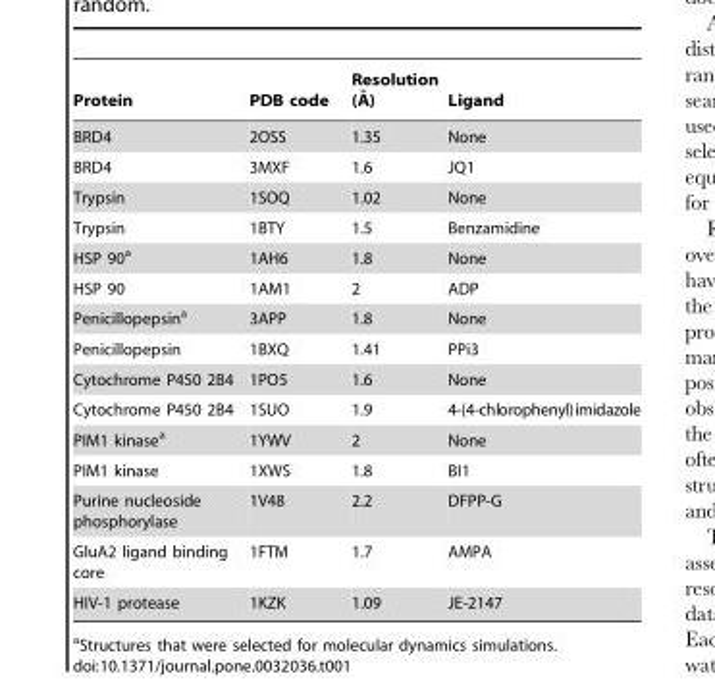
<table><thead><tr><td>Protein</td><td>PDB code</td><td>Resolution (A˚ )</td><td>Ligand</td></tr></thead><tbody><tr><td>BRD4</td><td>2OSS</td><td>1.35</td><td>None</td></tr><tr><td>BRD4</td><td>3MXF</td><td>1.6</td><td>JQ1</td></tr><tr><td>Trypsin</td><td>1SOQ</td><td>1.02</td><td>None</td></tr><tr><td>Trypsin</td><td>1BTY</td><td>1.5</td><td>Benzamidine</td></tr><tr><td>HSP 90<sup>a</sup></td><td>1AH6</td><td>1.8</td><td>None</td></tr><tr><td>HSP 90</td><td>1AM1</td><td>2</td><td>ADP</td></tr><tr><td>Penicillopepsin<sup>a</sup></td><td>3APP</td><td>1.8</td><td>None</td></tr><tr><td>Penicillopepsin</td><td>1BXQ</td><td>1.41</td><td>PPi3</td></tr><tr><td>Cytochrome P450 2B4</td><td>1PO5</td><td>1.6</td><td>None</td></tr><tr><td>Cytochrome P450 2B4</td><td>1SUO</td><td>1.9</td><td>4-(4-chlorophenyl)imidazole</td></tr><tr><td>PIM1 kinase<sup>a</sup></td><td>1YWV</td><td>2</td><td>None</td></tr><tr><td>PIM1 kinase</td><td>1XWS</td><td>1.8</td><td>BI1</td></tr><tr><td>Purine nucleoside phosphorylase</td><td>1V48</td><td>2.2</td><td>DFPP-G</td></tr><tr><td>GluA2 ligand binding core</td><td>1FTM</td><td>1.7</td><td>AMPA</td></tr><tr><td>HIV-1 protease</td><td>1KZK</td><td>1.09</td><td>JE-2147</td></tr></tbody></table>